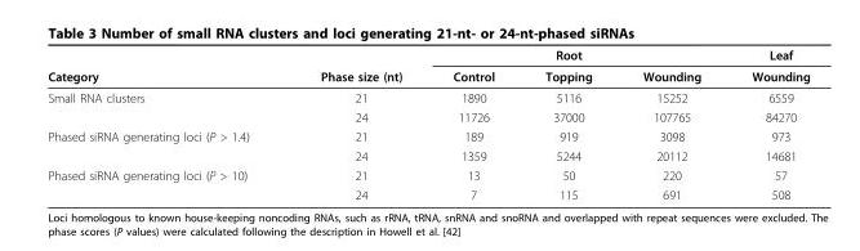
<table><thead><tr><td rowspan="2">Category</td><td rowspan="2">Phase size (nt)</td><td rowspan="2">Control</td><td rowspan="2">Root Topping</td><td rowspan="2">Wounding</td><td rowspan="2">Leaf Wounding</td></tr><tr></tr></thead><tbody><tr><td rowspan="2">Small RNA clusters</td><td>21</td><td>1890</td><td>5116</td><td>15252</td><td>6559</td></tr><tr><td>24</td><td>11726</td><td>37000</td><td>107765</td><td>84270</td></tr><tr><td rowspan="2">Phased siRNA generating loci (P &gt; 1.4)</td><td>21</td><td>189</td><td>919</td><td>3098</td><td>973</td></tr><tr><td>24</td><td>1359</td><td>5244</td><td>20112</td><td>14681</td></tr><tr><td rowspan="2">Phased siRNA generating loci (P &gt; 10)</td><td>21</td><td>13</td><td>50</td><td>220</td><td>57</td></tr><tr><td>24</td><td>7</td><td>115</td><td>691</td><td>508</td></tr></tbody></table>